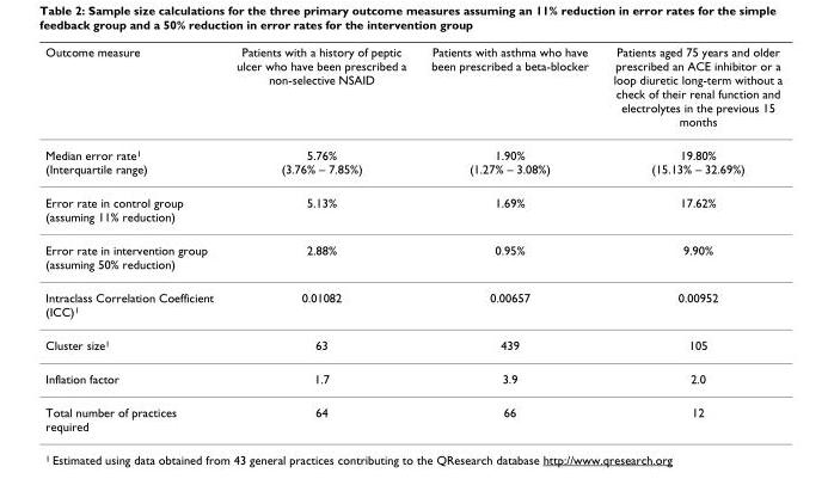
<table><thead><tr><td>Outcome measure</td><td>Patients with a history of peptic ulcer who have been prescribed a non-selective NSAID</td><td>Patients with asthma who have been prescribed a beta-blocker</td><td>Patients aged 75 years and older prescribed an ACE inhibitor or a loop diuretic long-term without a check of their renal function and electrolytes in the previous 15 months</td></tr></thead><tbody><tr><td>Median error rate<sup>1</sup> (Interquartile range)</td><td>5.76% (3.76% – 7.85%)</td><td>1.90% (1.27% – 3.08%)</td><td>19.80% (15.13% – 32.69%)</td></tr><tr><td>Error rate in control group (assuming 11% reduction)</td><td>5.13%</td><td>1.69%</td><td>17.62%</td></tr><tr><td>Error rate in intervention group (assuming 50% reduction)</td><td>2.88%</td><td>0.95%</td><td>9.90%</td></tr><tr><td>Intraclass Correlation Coefficient (ICC)<sup>1</sup></td><td>0.01082</td><td>0.00657</td><td>0.00952</td></tr><tr><td>Cluster size<sup>1</sup></td><td>63</td><td>439</td><td>105</td></tr><tr><td>Inflation factor</td><td>1.7</td><td>3.9</td><td>2.0</td></tr><tr><td>Total number of practices required</td><td>64</td><td>66</td><td>12</td></tr></tbody></table>